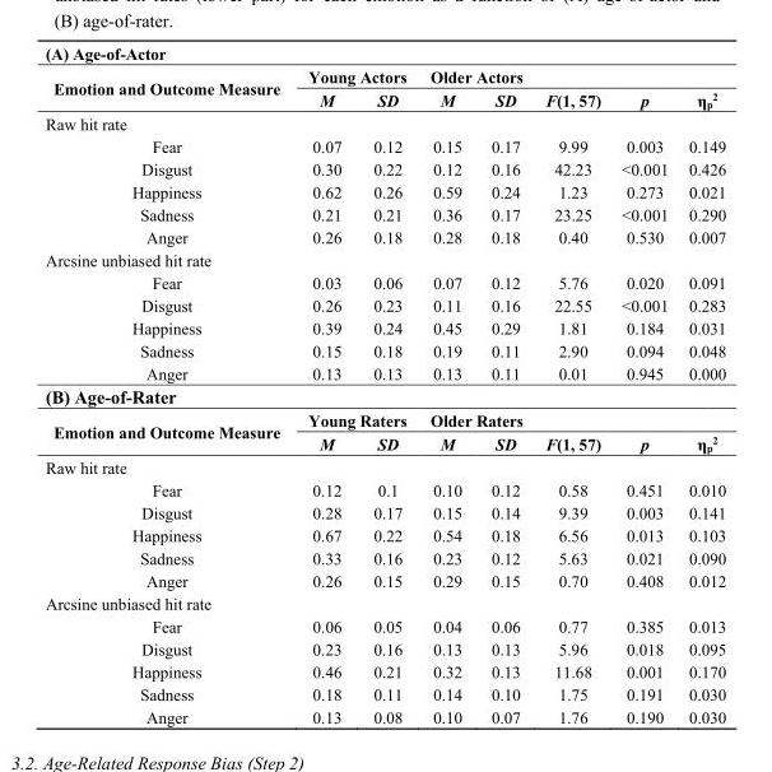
<table><tbody><tr><td colspan="8">(A) Age-of-Actor</td></tr><tr><td rowspan="2">Emotion and Outcome Measure</td><td colspan="2">Young Actors</td><td colspan="2">Older Actors</td><td></td><td></td><td></td></tr><tr><td>M</td><td>SD</td><td>M</td><td>SD</td><td>F(1, 57)</td><td>p</td><td>η<sub>p</sub><sup>2</sup></td></tr><tr><td colspan="8">Raw hit rate</td></tr><tr><td>Fear</td><td>0.07</td><td>0.12</td><td>0.15</td><td>0.17</td><td>9.99</td><td>0.003</td><td>0.149</td></tr><tr><td>Disgust</td><td>0.30</td><td>0.22</td><td>0.12</td><td>0.16</td><td>42.23</td><td>&lt;0.001</td><td>0.426</td></tr><tr><td>Happiness</td><td>0.62</td><td>0.26</td><td>0.59</td><td>0.24</td><td>1.23</td><td>0.273</td><td>0.021</td></tr><tr><td>Sadness</td><td>0.21</td><td>0.21</td><td>0.36</td><td>0.17</td><td>23.25</td><td>&lt;0.001</td><td>0.290</td></tr><tr><td>Anger</td><td>0.26</td><td>0.18</td><td>0.28</td><td>0.18</td><td>0.40</td><td>0.530</td><td>0.007</td></tr><tr><td colspan="8">Arcsine unbiased hit rate</td></tr><tr><td>Fear</td><td>0.03</td><td>0.06</td><td>0.07</td><td>0.12</td><td>5.76</td><td>0.020</td><td>0.091</td></tr><tr><td>Disgust</td><td>0.26</td><td>0.23</td><td>0.11</td><td>0.16</td><td>22.55</td><td>&lt;0.001</td><td>0.283</td></tr><tr><td>Happiness</td><td>0.39</td><td>0.24</td><td>0.45</td><td>0.29</td><td>1.81</td><td>0.184</td><td>0.031</td></tr><tr><td>Sadness</td><td>0.15</td><td>0.18</td><td>0.19</td><td>0.11</td><td>2.90</td><td>0.094</td><td>0.048</td></tr><tr><td>Anger</td><td>0.13</td><td>0.13</td><td>0.13</td><td>0.11</td><td>0.01</td><td>0.945</td><td>0.000</td></tr><tr><td colspan="8">(B) Age-of-Rater</td></tr><tr><td rowspan="2">Emotion and Outcome Measure</td><td colspan="2">Young Raters</td><td colspan="2">Older Raters</td><td></td><td></td><td></td></tr><tr><td>M</td><td>SD</td><td>M</td><td>SD</td><td>F(1, 57)</td><td>p</td><td>η<sub>p</sub><sup>2</sup></td></tr><tr><td colspan="8">Raw hit rate</td></tr><tr><td>Fear</td><td>0.12</td><td>0.1</td><td>0.10</td><td>0.12</td><td>0.58</td><td>0.451</td><td>0.010</td></tr><tr><td>Disgust</td><td>0.28</td><td>0.17</td><td>0.15</td><td>0.14</td><td>9.39</td><td>0.003</td><td>0.141</td></tr><tr><td>Happiness</td><td>0.67</td><td>0.22</td><td>0.54</td><td>0.18</td><td>6.56</td><td>0.013</td><td>0.103</td></tr><tr><td>Sadness</td><td>0.33</td><td>0.16</td><td>0.23</td><td>0.12</td><td>5.63</td><td>0.021</td><td>0.090</td></tr><tr><td>Anger</td><td>0.26</td><td>0.15</td><td>0.29</td><td>0.15</td><td>0.70</td><td>0.408</td><td>0.012</td></tr><tr><td colspan="8">Arcsine unbiased hit rate</td></tr><tr><td>Fear</td><td>0.06</td><td>0.05</td><td>0.04</td><td>0.06</td><td>0.77</td><td>0.385</td><td>0.013</td></tr><tr><td>Disgust</td><td>0.23</td><td>0.16</td><td>0.13</td><td>0.13</td><td>5.96</td><td>0.018</td><td>0.095</td></tr><tr><td>Happiness</td><td>0.46</td><td>0.21</td><td>0.32</td><td>0.13</td><td>11.68</td><td>0.001</td><td>0.170</td></tr><tr><td>Sadness</td><td>0.18</td><td>0.11</td><td>0.14</td><td>0.10</td><td>1.75</td><td>0.191</td><td>0.030</td></tr><tr><td>Anger</td><td>0.13</td><td>0.08</td><td>0.10</td><td>0.07</td><td>1.76</td><td>0.190</td><td>0.030</td></tr></tbody></table>